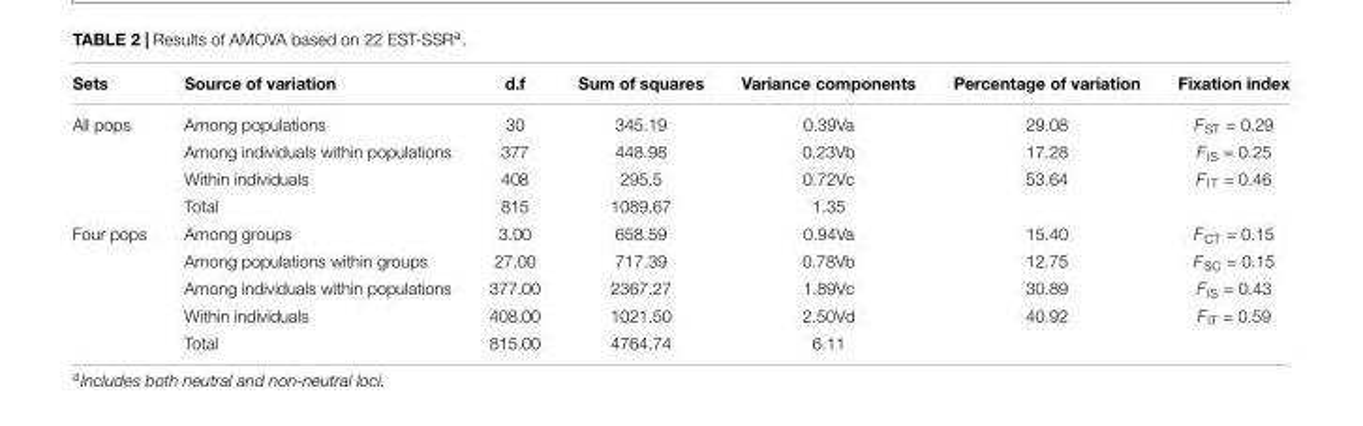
<table><thead><tr><td>Sets</td><td>Source of variation</td><td>d.f</td><td>Sum of squares</td><td>Variance components</td><td>Percentage of variation</td><td>Fixation index</td></tr></thead><tbody><tr><td rowspan="4">All pops</td><td>Among populations</td><td>30</td><td>345.19</td><td>0.39Va</td><td>29.08</td><td>F<sub>ST</sub> = 0.29</td></tr><tr><td>Among individuals within populations</td><td>377</td><td>448.98</td><td>0.23Vb</td><td>17.28</td><td>F<sub>IS</sub> = 0.25</td></tr><tr><td>Within individuals</td><td>408</td><td>295.5</td><td>0.72Vc</td><td>53.64</td><td>F<sub>IT</sub> = 0.46</td></tr><tr><td>Total</td><td>815</td><td>1089.67</td><td>1.35</td><td></td><td></td></tr><tr><td rowspan="5">Four pops</td><td>Among groups</td><td>3.00</td><td>658.59</td><td>0.94Va</td><td>15.40</td><td>F<sub>CT</sub> = 0.15</td></tr><tr><td>Among populations within groups</td><td>27.00</td><td>717.39</td><td>0.78Vb</td><td>12.75</td><td>F<sub>SC</sub> = 0.15</td></tr><tr><td>Among individuals within populations</td><td>377.00</td><td>2367.27</td><td>1.89Vc</td><td>30.89</td><td>F<sub>IS</sub> = 0.43</td></tr><tr><td>Within individuals</td><td>408.00</td><td>1021.50</td><td>2.50Vd</td><td>40.92</td><td>F<sub>IT</sub> = 0.59</td></tr><tr><td>Total</td><td>815.00</td><td>4764.74</td><td>6.11</td><td></td><td></td></tr></tbody></table>